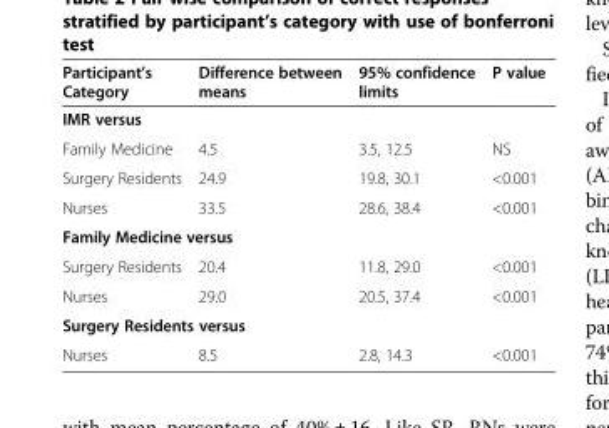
<table><thead><tr><td>Participant’s Category</td><td>Difference between means</td><td>95% confidence limits</td><td>P value</td></tr></thead><tbody><tr><td colspan="4">IMR versus</td></tr><tr><td>Family Medicine</td><td>4.5</td><td>3.5, 12.5</td><td>NS</td></tr><tr><td>Surgery Residents</td><td>24.9</td><td>19.8, 30.1</td><td>&lt;0.001</td></tr><tr><td>Nurses</td><td>33.5</td><td>28.6, 38.4</td><td>&lt;0.001</td></tr><tr><td colspan="4">Family Medicine versus</td></tr><tr><td>Surgery Residents</td><td>20.4</td><td>11.8, 29.0</td><td>&lt;0.001</td></tr><tr><td>Nurses</td><td>29.0</td><td>20.5, 37.4</td><td>&lt;0.001</td></tr><tr><td colspan="4">Surgery Residents versus</td></tr><tr><td>Nurses</td><td>8.5</td><td>2.8, 14.3</td><td>&lt;0.001</td></tr></tbody></table>